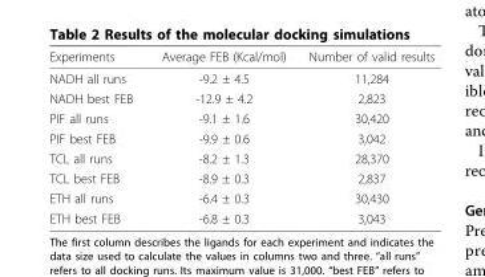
<table><thead><tr><td>Experiments</td><td>Average FEB (Kcal/mol)</td><td>Number of valid results</td></tr></thead><tbody><tr><td>NADH all runs</td><td>-9.2 ± 4.5</td><td>11,284</td></tr><tr><td>NADH best FEB</td><td>-12.9 ± 4.2</td><td>2,823</td></tr><tr><td>PIF all runs</td><td>-9.1 ± 1.6</td><td>30,420</td></tr><tr><td>PIF best FEB</td><td>-9.9 ± 0.6</td><td>3,042</td></tr><tr><td>TCL all runs</td><td>-8.2 ± 1.3</td><td>28,370</td></tr><tr><td>TCL best FEB</td><td>-8.9 ± 0.3</td><td>2,837</td></tr><tr><td>ETH all runs</td><td>-6.4 ± 0.3</td><td>30,430</td></tr><tr><td>ETH best FEB</td><td>-6.8 ± 0.3</td><td>3,043</td></tr></tbody></table>